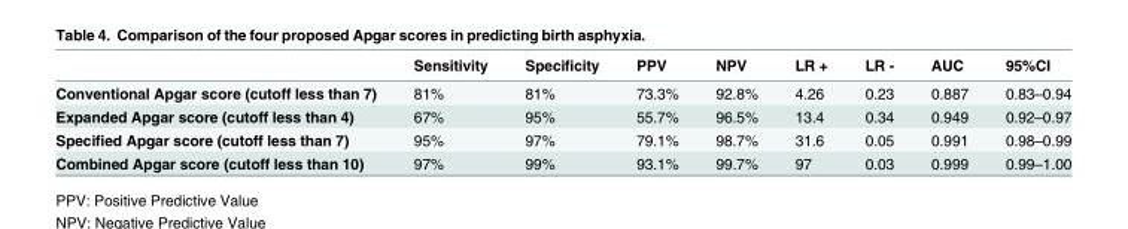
<table><thead><tr><td></td><td>Sensitivity</td><td>Specificity</td><td>PPV</td><td>NPV</td><td>LR +</td><td>LR -</td><td>AUC</td><td>95%CI</td></tr></thead><tbody><tr><td>Conventional Apgar score (cutoff less than 7)</td><td>81%</td><td>81%</td><td>73.3%</td><td>92.8%</td><td>4.26</td><td>0.23</td><td>0.887</td><td>0.83–0.94</td></tr><tr><td>Expanded Apgar score (cutoff less than 4)</td><td>67%</td><td>95%</td><td>55.7%</td><td>96.5%</td><td>13.4</td><td>0.34</td><td>0.949</td><td>0.92–0.97</td></tr><tr><td>Specified Apgar score (cutoff less than 7)</td><td>95%</td><td>97%</td><td>79.1%</td><td>98.7%</td><td>31.6</td><td>0.05</td><td>0.991</td><td>0.98–0.99</td></tr><tr><td>Combined Apgar score (cutoff less than 10)</td><td>97%</td><td>99%</td><td>93.1%</td><td>99.7%</td><td>97</td><td>0.03</td><td>0.999</td><td>0.99–1.00</td></tr></tbody></table>